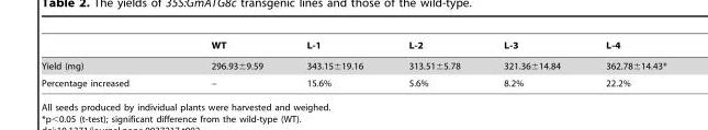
<table><thead><tr><td></td><td>WT</td><td>L-1</td><td>L-2</td><td>L-3</td><td>L-4</td></tr></thead><tbody><tr><td>Yield (mg)</td><td>296.93±9.59</td><td>343.15±19.16</td><td>313.51±5.78</td><td>321.36±14.84</td><td>362.78±14.43*</td></tr><tr><td>Percentage increased</td><td>–</td><td>15.6%</td><td>5.6%</td><td>8.2%</td><td>22.2%</td></tr></tbody></table>